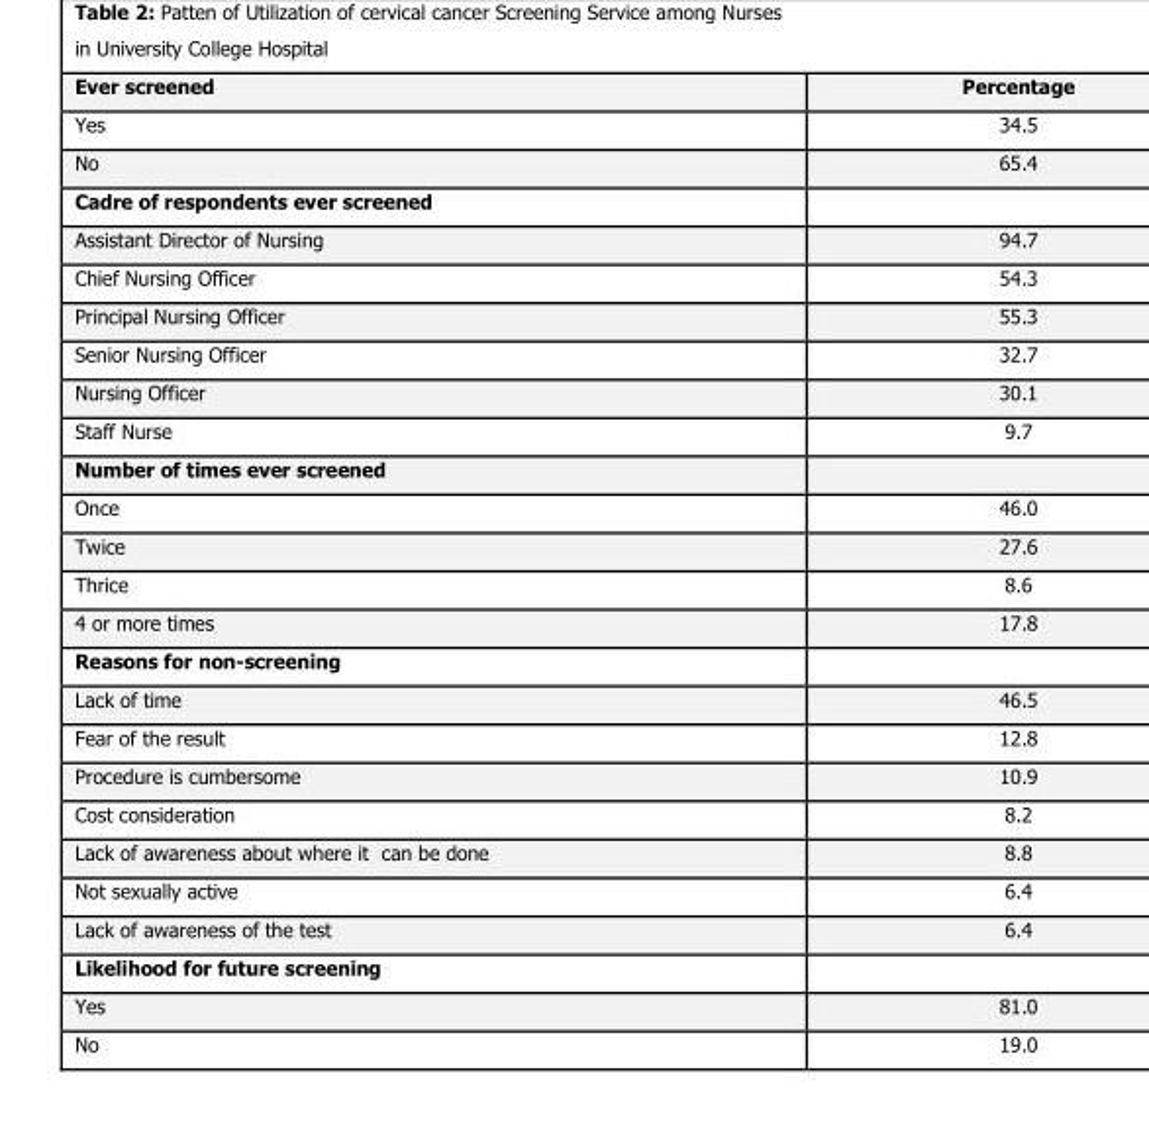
<table><thead><tr><td>Ever screened</td><td>Percentage</td></tr></thead><tbody><tr><td>Yes</td><td>34.5</td></tr><tr><td>No</td><td>65.4</td></tr><tr><td colspan="2">Cadre of respondents ever screened</td></tr><tr><td>Assistant Director of Nursing</td><td>94.7</td></tr><tr><td>Chief Nursing Officer</td><td>54.3</td></tr><tr><td>Principal Nursing Officer</td><td>55.3</td></tr><tr><td>Senior Nursing Officer</td><td>32.7</td></tr><tr><td>Nursing Officer</td><td>30.1</td></tr><tr><td>Staff Nurse</td><td>9.7</td></tr><tr><td colspan="2">Number of times ever screened</td></tr><tr><td>Once</td><td>46.0</td></tr><tr><td>Twice</td><td>27.6</td></tr><tr><td>Thrice</td><td>8.6</td></tr><tr><td>4 or more times</td><td>17.8</td></tr><tr><td colspan="2">Reasons for non-screening</td></tr><tr><td>Lack of time</td><td>46.5</td></tr><tr><td>Fear of the result</td><td>12.8</td></tr><tr><td>Procedure is cumbersome</td><td>10.9</td></tr><tr><td>Cost consideration</td><td>8.2</td></tr><tr><td>Lack of awareness about where it can be done</td><td>8.8</td></tr><tr><td>Not sexually active</td><td>6.4</td></tr><tr><td>Lack of awareness of the test</td><td>6.4</td></tr><tr><td colspan="2">Likelihood for future screening</td></tr><tr><td>Yes</td><td>81.0</td></tr><tr><td>No</td><td>19.0</td></tr></tbody></table>